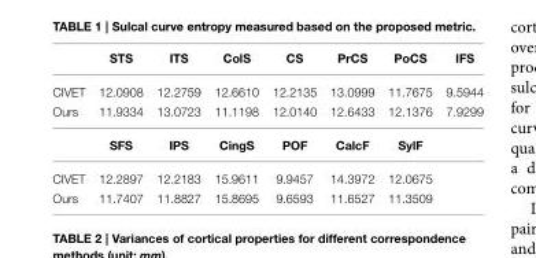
<table><thead><tr><td></td><td>STS</td><td>ITS</td><td>ColS</td><td>CS</td><td>PrCS</td><td>PoCS</td><td>IFS</td></tr></thead><tbody><tr><td>CIVET</td><td>12.0908</td><td>12.2759</td><td>12.6610</td><td>12.2135</td><td>13.0999</td><td>11.7675</td><td>9.5944</td></tr><tr><td rowspan="2">Ours</td><td>11.9334</td><td>13.0723</td><td>11.1198</td><td>12.0140</td><td>12.6433</td><td>12.1376</td><td>7.9299</td></tr><tr><td>SFS</td><td>IPS</td><td>CingS</td><td>POF</td><td>CalcF</td><td>SylF</td><td></td></tr><tr><td>CIVET</td><td>12.2897</td><td>12.2183</td><td>15.9611</td><td>9.9457</td><td>14.3972</td><td>12.0675</td><td></td></tr><tr><td>Ours</td><td>11.7407</td><td>11.8827</td><td>15.8695</td><td>9.6593</td><td>11.6527</td><td>11.3509</td><td></td></tr></tbody></table>